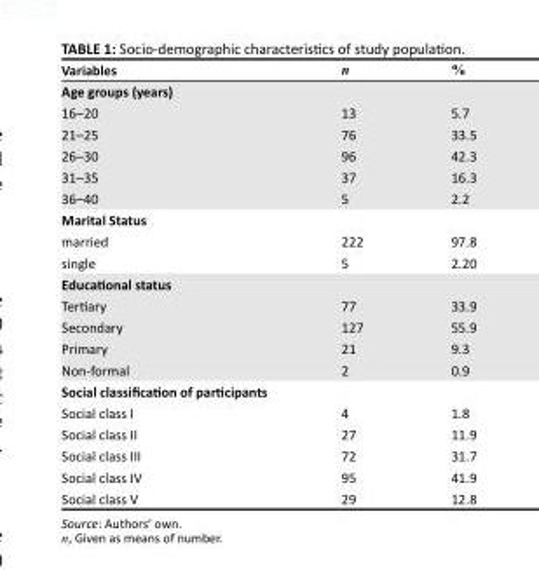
<table><thead><tr><td>Variables</td><td>n</td><td>%</td></tr></thead><tbody><tr><td colspan="3">Age groups (years)</td></tr><tr><td>16–20</td><td>13</td><td>5.7</td></tr><tr><td>21–25</td><td>76</td><td>33.5</td></tr><tr><td>26–30</td><td>96</td><td>42.3</td></tr><tr><td>31–35</td><td>37</td><td>16.3</td></tr><tr><td>36–40</td><td>5</td><td>2.2</td></tr><tr><td colspan="3">Marital Status</td></tr><tr><td>married</td><td>222</td><td>97.8</td></tr><tr><td>single</td><td>5</td><td>2.20</td></tr><tr><td colspan="3">Educational status</td></tr><tr><td>Tertiary</td><td>77</td><td>33.9</td></tr><tr><td>Secondary</td><td>127</td><td>55.9</td></tr><tr><td>Primary</td><td>21</td><td>9.3</td></tr><tr><td>Non-formal</td><td>2</td><td>0.9</td></tr><tr><td colspan="3">Social classification of participants</td></tr><tr><td>Social class I</td><td>4</td><td>1.8</td></tr><tr><td>Social class II</td><td>27</td><td>11.9</td></tr><tr><td>Social class III</td><td>72</td><td>31.7</td></tr><tr><td>Social class IV</td><td>95</td><td>41.9</td></tr><tr><td>Social class V</td><td>29</td><td>12.8</td></tr></tbody></table>